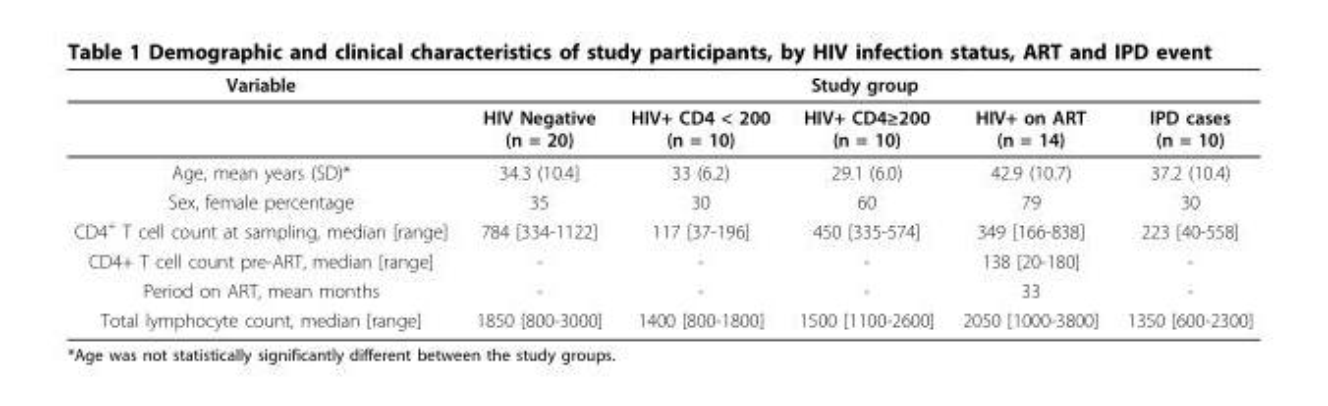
<table><thead><tr><td rowspan="2">Variable</td><td colspan="5">Study group</td></tr><tr><td>HIV Negative (n = 20)</td><td>HIV+ CD4 &lt; 200 (n = 10)</td><td>HIV+ CD4≥200 (n = 10)</td><td>HIV+ on ART (n = 14)</td><td>IPD cases (n = 10)</td></tr></thead><tbody><tr><td>Age, mean years (SD)*</td><td>34.3 (10.4]</td><td>33 (6.2)</td><td>29.1 (6.0)</td><td>42.9 (10.7)</td><td>37.2 (10.4)</td></tr><tr><td>Sex, female percentage</td><td>35</td><td>30</td><td>60</td><td>79</td><td>30</td></tr><tr><td>CD4<sup>+</sup> T cell count at sampling, median [range]</td><td>784 [334-1122]</td><td>117 [37-196]</td><td>450 [335-574]</td><td>349 [166-838]</td><td>223 [40-558]</td></tr><tr><td>CD4+ T cell count pre-ART, median [range]</td><td>-</td><td>-</td><td>-</td><td>138 [20-180]</td><td>-</td></tr><tr><td>Period on ART, mean months</td><td>-</td><td>-</td><td>-</td><td>33</td><td>-</td></tr><tr><td>Total lymphocyte count, median [range]</td><td>1850 [800-3000]</td><td>1400 [800-1800]</td><td>1500 [1100-2600]</td><td>2050 [1000-3800]</td><td>1350 [600-2300]</td></tr></tbody></table>